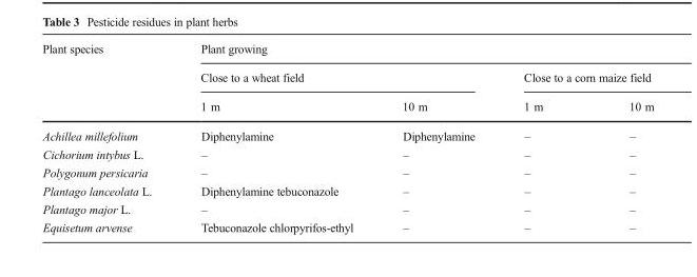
<table><thead><tr><td rowspan="3">Plant species</td><td colspan="4">Plant growing</td></tr><tr><td colspan="2">Close to a wheat field</td><td colspan="2">Close to a corn maize field</td></tr><tr><td>1 m</td><td>10 m</td><td>1 m</td><td>10 m</td></tr></thead><tbody><tr><td>Achillea millefolium</td><td>Diphenylamine</td><td>Diphenylamine</td><td>–</td><td>–</td></tr><tr><td>Cichorium intybus L.</td><td>–</td><td>–</td><td>–</td><td>–</td></tr><tr><td>Polygonum persicaria</td><td>–</td><td>–</td><td>–</td><td>–</td></tr><tr><td>Plantago lanceolata L.</td><td>Diphenylamine tebuconazole</td><td>–</td><td>–</td><td>–</td></tr><tr><td>Plantago major L.</td><td>–</td><td>–</td><td>–</td><td>–</td></tr><tr><td>Equisetum arvense</td><td>Tebuconazole chlorpyrifos-ethyl</td><td>–</td><td>–</td><td>–</td></tr></tbody></table>